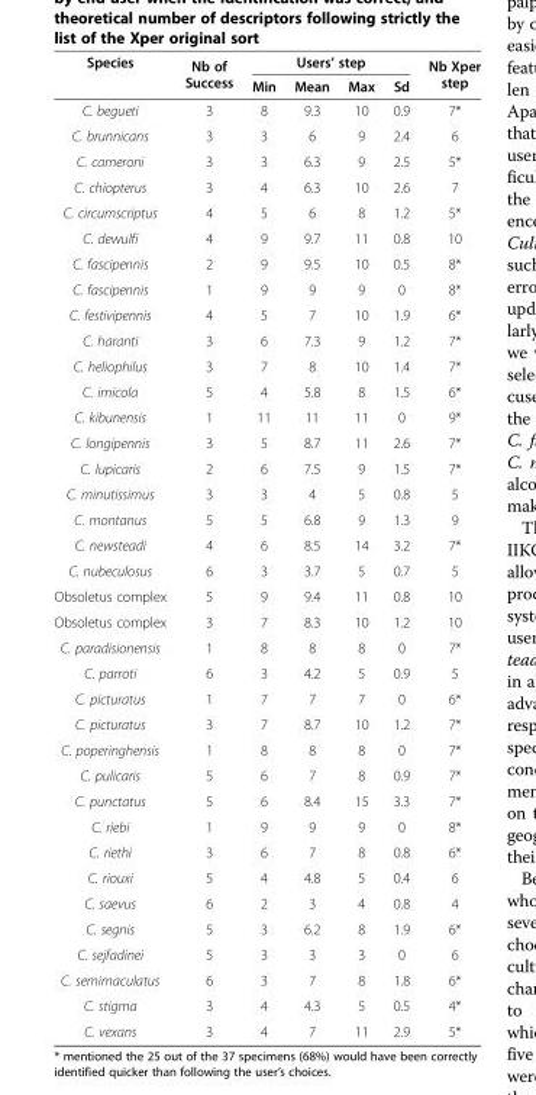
<table><thead><tr><td rowspan="2">Species</td><td rowspan="2">Nb of Success</td><td colspan="4">Users’ step</td><td rowspan="2">Nb Xper step</td></tr><tr><td>Min</td><td>Mean</td><td>Max</td><td>Sd</td></tr></thead><tbody><tr><td>C. begueti</td><td>3</td><td>8</td><td>9.3</td><td>10</td><td>0.9</td><td>7*</td></tr><tr><td>C. brunnicans</td><td>3</td><td>3</td><td>6</td><td>9</td><td>2.4</td><td>6</td></tr><tr><td>C. cameroni</td><td>3</td><td>3</td><td>6.3</td><td>9</td><td>2.5</td><td>5*</td></tr><tr><td>C. chiopterus</td><td>3</td><td>4</td><td>6.3</td><td>10</td><td>2.6</td><td>7</td></tr><tr><td>C. circumscriptus</td><td>4</td><td>5</td><td>6</td><td>8</td><td>1.2</td><td>5*</td></tr><tr><td>C. dewulfi</td><td>4</td><td>9</td><td>9.7</td><td>11</td><td>0.8</td><td>10</td></tr><tr><td>C. fascipennis</td><td>2</td><td>9</td><td>9.5</td><td>10</td><td>0.5</td><td>8*</td></tr><tr><td>C. fascipennis</td><td>1</td><td>9</td><td>9</td><td>9</td><td>0</td><td>8*</td></tr><tr><td>C. festivipennis</td><td>4</td><td>5</td><td>7</td><td>10</td><td>1.9</td><td>6*</td></tr><tr><td>C. haranti</td><td>3</td><td>6</td><td>7.3</td><td>9</td><td>1.2</td><td>7*</td></tr><tr><td>C. heliophilus</td><td>3</td><td>7</td><td>8</td><td>10</td><td>1.4</td><td>7*</td></tr><tr><td>C. imicola</td><td>5</td><td>4</td><td>5.8</td><td>8</td><td>1.5</td><td>6*</td></tr><tr><td>C. kibunensis</td><td>1</td><td>11</td><td>11</td><td>11</td><td>0</td><td>9*</td></tr><tr><td>C. longipennis</td><td>3</td><td>5</td><td>8.7</td><td>11</td><td>2.6</td><td>7*</td></tr><tr><td>C. lupicaris</td><td>2</td><td>6</td><td>7.5</td><td>9</td><td>1.5</td><td>7*</td></tr><tr><td>C. minutissimus</td><td>3</td><td>3</td><td>4</td><td>5</td><td>0.8</td><td>5</td></tr><tr><td>C. montanus</td><td>5</td><td>5</td><td>6.8</td><td>9</td><td>1.3</td><td>9</td></tr><tr><td>C. newsteadi</td><td>4</td><td>6</td><td>8.5</td><td>14</td><td>3.2</td><td>7*</td></tr><tr><td>C. nubeculosus</td><td>6</td><td>3</td><td>3.7</td><td>5</td><td>0.7</td><td>5</td></tr><tr><td>Obsoletus complex</td><td>5</td><td>9</td><td>9.4</td><td>11</td><td>0.8</td><td>10</td></tr><tr><td>Obsoletus complex</td><td>3</td><td>7</td><td>8.3</td><td>10</td><td>1.2</td><td>10</td></tr><tr><td>C. paradisionensis</td><td>1</td><td>8</td><td>8</td><td>8</td><td>0</td><td>7*</td></tr><tr><td>C. parroti</td><td>6</td><td>3</td><td>4.2</td><td>5</td><td>0.9</td><td>5</td></tr><tr><td>C. picturatus</td><td>1</td><td>7</td><td>7</td><td>7</td><td>0</td><td>6*</td></tr><tr><td>C. picturatus</td><td>3</td><td>7</td><td>8.7</td><td>10</td><td>1.2</td><td>7*</td></tr><tr><td>C. poperinghensis</td><td>1</td><td>8</td><td>8</td><td>8</td><td>0</td><td>7*</td></tr><tr><td>C. pulicaris</td><td>5</td><td>6</td><td>7</td><td>8</td><td>0.9</td><td>7*</td></tr><tr><td>C. punctatus</td><td>5</td><td>6</td><td>8.4</td><td>15</td><td>3.3</td><td>7*</td></tr><tr><td>C. riebi</td><td>1</td><td>9</td><td>9</td><td>9</td><td>0</td><td>8*</td></tr><tr><td>C. riethi</td><td>3</td><td>6</td><td>7</td><td>8</td><td>0.8</td><td>6*</td></tr><tr><td>C. riouxi</td><td>5</td><td>4</td><td>4.8</td><td>5</td><td>0.4</td><td>6</td></tr><tr><td>C. saevus</td><td>6</td><td>2</td><td>3</td><td>4</td><td>0.8</td><td>4</td></tr><tr><td>C. segnis</td><td>5</td><td>3</td><td>6.2</td><td>8</td><td>1.9</td><td>6*</td></tr><tr><td>C. sejfadinei</td><td>5</td><td>3</td><td>3</td><td>3</td><td>0</td><td>6</td></tr><tr><td>C. semimaculatus</td><td>6</td><td>3</td><td>7</td><td>8</td><td>1.8</td><td>6*</td></tr><tr><td>C. stigma</td><td>3</td><td>4</td><td>4.3</td><td>5</td><td>0.5</td><td>4*</td></tr><tr><td>C. vexans</td><td>3</td><td>4</td><td>7</td><td>11</td><td>2.9</td><td>5*</td></tr></tbody></table>